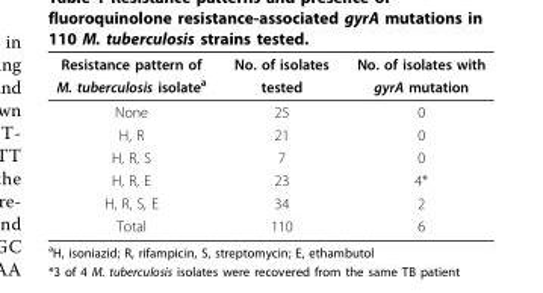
<table><thead><tr><td rowspan="2">Resistance pattern of M. tuberculosis isolate<sup>a</sup></td><td rowspan="2">No. of isolates tested</td><td rowspan="2">No. of isolates with gyrA mutation</td></tr><tr></tr></thead><tbody><tr><td>None</td><td>25</td><td>0</td></tr><tr><td>H, R</td><td>21</td><td>0</td></tr><tr><td>H, R, S</td><td>7</td><td>0</td></tr><tr><td>H, R, E</td><td>23</td><td>4*</td></tr><tr><td>H, R, S, E</td><td>34</td><td>2</td></tr><tr><td>Total</td><td>110</td><td>6</td></tr></tbody></table>